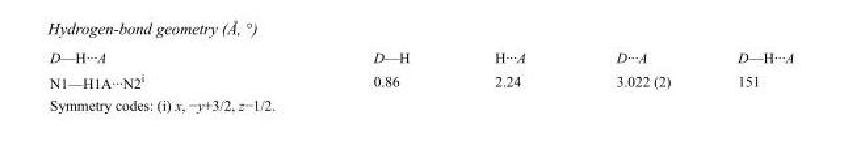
<table><tbody><tr><td>D—H···A</td><td>D—H</td><td>H···A</td><td>D···A</td><td>D—H···A</td></tr><tr><td>N1—H1A···N2<sup>i</sup></td><td>0.86</td><td>2.24</td><td>3.022 (2)</td><td>151</td></tr></tbody></table>